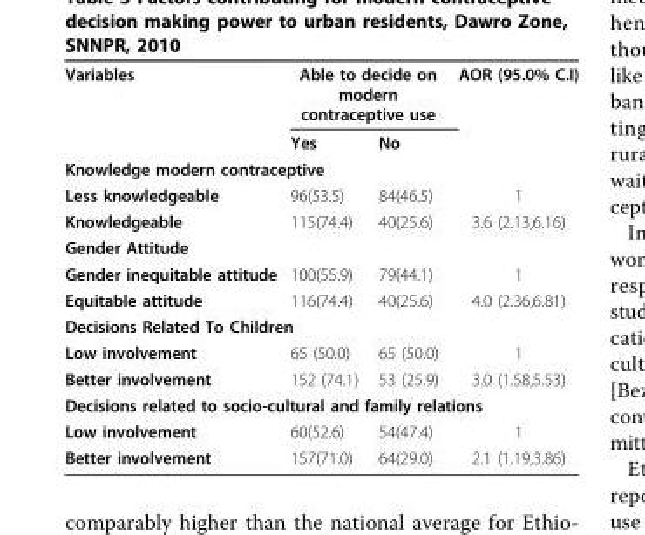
<table><tbody><tr><td rowspan="2">Variables</td><td colspan="2">Able to decide on modern contraceptive use</td><td>AOR (95.0% C.I)</td></tr><tr><td>Yes</td><td>No</td><td></td></tr><tr><td colspan="4">Knowledge modern contraceptive</td></tr><tr><td>Less knowledgeable</td><td>96(53.5)</td><td>84(46.5)</td><td>1</td></tr><tr><td>Knowledgeable</td><td>115(74.4)</td><td>40(25.6)</td><td>3.6 (2.13,6.16)</td></tr><tr><td colspan="4">Gender Attitude</td></tr><tr><td>Gender inequitable attitude</td><td>100(55.9)</td><td>79(44.1)</td><td>1</td></tr><tr><td>Equitable attitude</td><td>116(74.4)</td><td>40(25.6)</td><td>4.0 (2.36,6.81)</td></tr><tr><td colspan="4">Decisions Related To Children</td></tr><tr><td>Low involvement</td><td>65 (50.0)</td><td>65 (50.0)</td><td>1</td></tr><tr><td>Better involvement</td><td>152 (74.1)</td><td>53 (25.9)</td><td>3.0 (1.58,5.53)</td></tr><tr><td colspan="4">Decisions related to socio-cultural and family relations</td></tr><tr><td>Low involvement</td><td>60(52.6)</td><td>54(47.4)</td><td>1</td></tr><tr><td>Better involvement</td><td>157(71.0)</td><td>64(29.0)</td><td>2.1 (1.19,3.86)</td></tr></tbody></table>